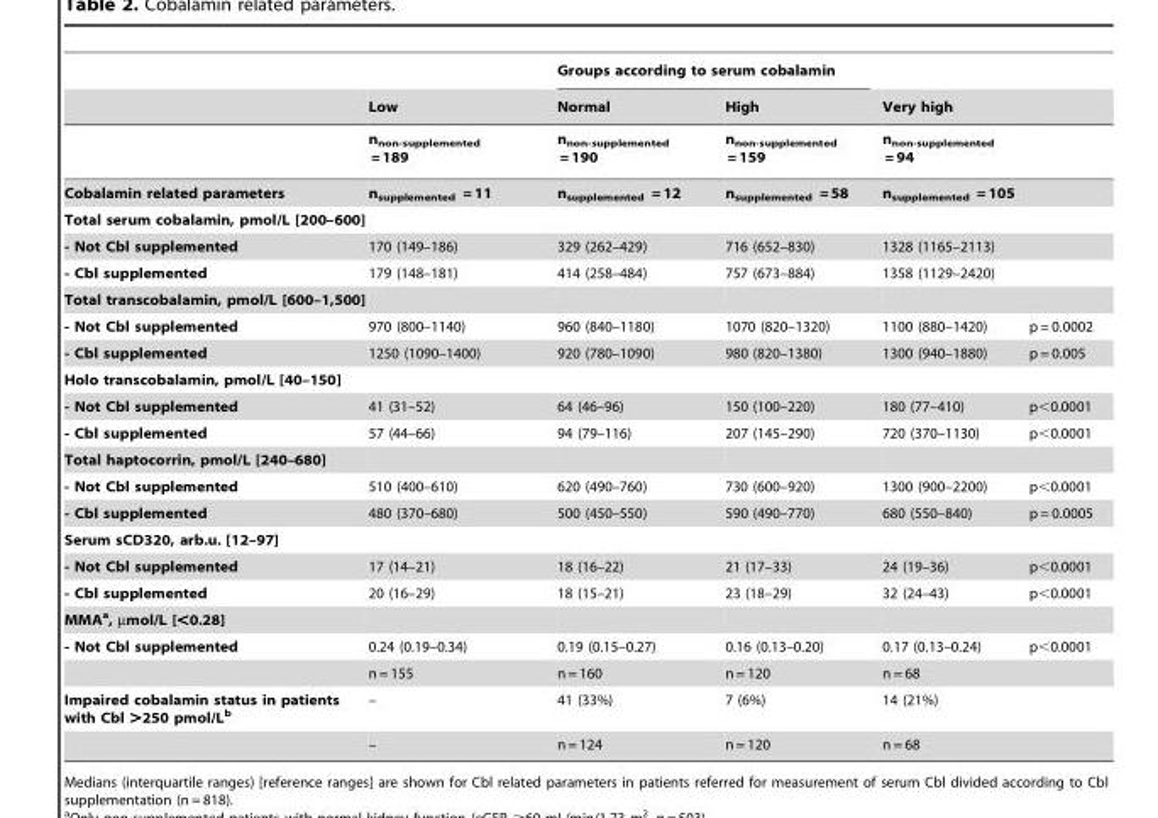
<table><thead><tr><td rowspan="2"></td><td rowspan="2">Low</td><td colspan="2">Groups according to serum cobalamin</td><td rowspan="2">Very high</td><td rowspan="2"></td></tr><tr><td>Normal</td><td>High</td></tr></thead><tbody><tr><td></td><td>n<sub>non-supplemented</sub> = 189</td><td>n<sub>non-supplemented</sub> = 190</td><td>n<sub>non-supplemented</sub> = 159</td><td>n<sub>non-supplemented</sub> = 94</td><td></td></tr><tr><td>Cobalamin related parameters</td><td>n<sub>supplemented</sub> = 11</td><td>n<sub>supplemented</sub> = 12</td><td>n<sub>supplemented</sub> = 58</td><td>n<sub>supplemented</sub> = 105</td><td></td></tr><tr><td colspan="6">Total serum cobalamin, pmol/L [200–600]</td></tr><tr><td>- Not Cbl supplemented</td><td>170 (149–186)</td><td>329 (262–429)</td><td>716 (652–830)</td><td>1328 (1165–2113)</td><td></td></tr><tr><td>- Cbl supplemented</td><td>179 (148–181)</td><td>414 (258–484)</td><td>757 (673–884)</td><td>1358 (1129–2420)</td><td></td></tr><tr><td colspan="6">Total transcobalamin, pmol/L [600–1,500]</td></tr><tr><td>- Not Cbl supplemented</td><td>970 (800–1140)</td><td>960 (840–1180)</td><td>1070 (820–1320)</td><td>1100 (880–1420)</td><td>p = 0.0002</td></tr><tr><td>- Cbl supplemented</td><td>1250 (1090–1400)</td><td>920 (780–1090)</td><td>980 (820–1380)</td><td>1300 (940–1880)</td><td>p = 0.005</td></tr><tr><td colspan="6">Holo transcobalamin, pmol/L [40–150]</td></tr><tr><td>- Not Cbl supplemented</td><td>41 (31–52)</td><td>64 (46–96)</td><td>150 (100–220)</td><td>180 (77–410)</td><td>p&lt;0.0001</td></tr><tr><td>- Cbl supplemented</td><td>57 (44–66)</td><td>94 (79–116)</td><td>207 (145–290)</td><td>720 (370–1130)</td><td>p&lt;0.0001</td></tr><tr><td colspan="6">Total haptocorrin, pmol/L [240–680]</td></tr><tr><td>- Not Cbl supplemented</td><td>510 (400–610)</td><td>620 (490–760)</td><td>730 (600–920)</td><td>1300 (900–2200)</td><td>p&lt;0.0001</td></tr><tr><td>- Cbl supplemented</td><td>480 (370–680)</td><td>500 (450–550)</td><td>590 (490–770)</td><td>680 (550–840)</td><td>p = 0.0005</td></tr><tr><td colspan="6">Serum sCD320, arb.u. [12–97]</td></tr><tr><td>- Not Cbl supplemented</td><td>17 (14–21)</td><td>18 (16–22)</td><td>21 (17–33)</td><td>24 (19–36)</td><td>p&lt;0.0001</td></tr><tr><td>- Cbl supplemented</td><td>20 (16–29)</td><td>18 (15–21)</td><td>23 (18–29)</td><td>32 (24–43)</td><td>p&lt;0.0001</td></tr><tr><td colspan="6">MMAa, µmol/L [&lt;0.28]</td></tr><tr><td rowspan="2">- Not Cbl supplemented</td><td>0.24 (0.19–0.34)</td><td>0.19 (0.15–0.27)</td><td>0.16 (0.13–0.20)</td><td>0.17 (0.13–0.24)</td><td>p&lt;0.0001</td></tr><tr><td>n = 155</td><td>n = 160</td><td>n = 120</td><td>n = 68</td><td></td></tr><tr><td rowspan="2">Impaired cobalamin status in patients with Cbl &gt;250 pmol/Lb</td><td>–</td><td>41 (33%)</td><td>7 (6%)</td><td>14 (21%)</td><td></td></tr><tr><td>–</td><td>n = 124</td><td>n = 120</td><td>n = 68</td><td></td></tr></tbody></table>